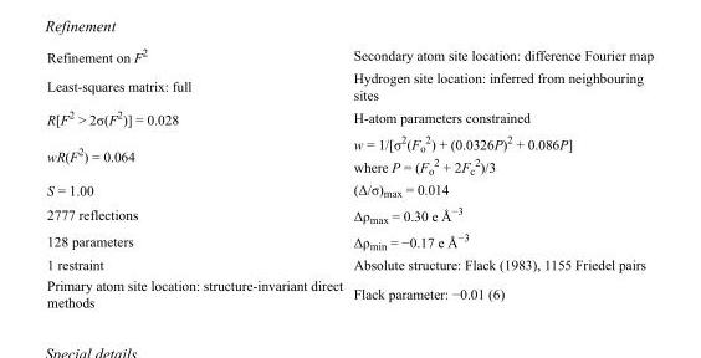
<table><tbody><tr><td>Refinement on F<sup>2</sup></td><td>Secondary atom site location: difference Fourier map</td></tr><tr><td>Least-squares matrix: full</td><td>Hydrogen site location: inferred from neighbouring sites</td></tr><tr><td>R[F<sup>2</sup> &gt; 2σ(F<sup>2</sup>)] = 0.028</td><td>H-atom parameters constrained</td></tr><tr><td>wR(F<sup>2</sup>) = 0.064</td><td>w = 1/[σ<sup>2</sup>(F<sub>o</sub> <sup>2</sup>) + (0.0326P)<sup>2</sup> + 0.086P] where P = (F<sub>o</sub> <sup>2</sup> + 2F<sub>c</sub> <sup>2</sup>)/3</td></tr><tr><td>S = 1.00</td><td>(Δ/σ)<sub>max</sub> = 0.014</td></tr><tr><td>2777 reflections</td><td>Δρ<sub>max</sub> = 0.30 e Å<sup>−3</sup></td></tr><tr><td>128 parameters</td><td>Δρ<sub>min</sub> = −0.17 e Å<sup>−3</sup></td></tr><tr><td>1 restraint</td><td>Absolute structure: Flack (1983), 1155 Friedel pairs</td></tr><tr><td>Primary atom site location: structure-invariant direct methods</td><td>Flack parameter: −0.01 (6)</td></tr></tbody></table>